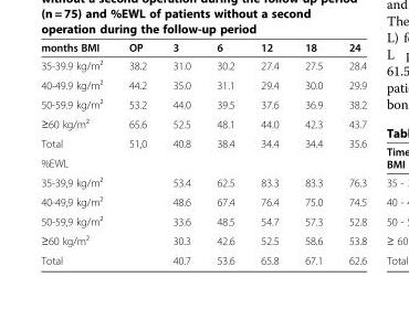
<table><thead><tr><td>months BMI</td><td>OP</td><td>3</td><td>6</td><td>12</td><td>18</td><td>24</td></tr></thead><tbody><tr><td>35-39.9 kg/m²</td><td>38.2</td><td>31.0</td><td>30.2</td><td>27.4</td><td>27.5</td><td>28.4</td></tr><tr><td>40-49.9 kg/m²</td><td>44.2</td><td>35.0</td><td>31.1</td><td>29.4</td><td>30.0</td><td>29.9</td></tr><tr><td>50-59.9 kg/m²</td><td>53.2</td><td>44.0</td><td>39.5</td><td>37.6</td><td>36.9</td><td>38.2</td></tr><tr><td>≥60 kg/m²</td><td>65.6</td><td>52.5</td><td>48.1</td><td>44.0</td><td>42.3</td><td>43.7</td></tr><tr><td>Total</td><td>51,0</td><td>40.8</td><td>38.4</td><td>34.4</td><td>34.4</td><td>35.6</td></tr><tr><td colspan="7">%EWL</td></tr><tr><td>35-39,9 kg/m²</td><td></td><td>53.4</td><td>62.5</td><td>83.3</td><td>83.3</td><td>76.3</td></tr><tr><td>40-49,9 kg/m²</td><td></td><td>48.6</td><td>67.4</td><td>76.4</td><td>75.0</td><td>74.5</td></tr><tr><td>50-59,9 kg/m²</td><td></td><td>33.6</td><td>48.5</td><td>54.7</td><td>57.3</td><td>52.8</td></tr><tr><td>≥60 kg/m²</td><td></td><td>30.3</td><td>42.6</td><td>52.5</td><td>58.6</td><td>53.8</td></tr><tr><td>Total</td><td></td><td>40.7</td><td>53.6</td><td>65.8</td><td>67.1</td><td>62.6</td></tr></tbody></table>